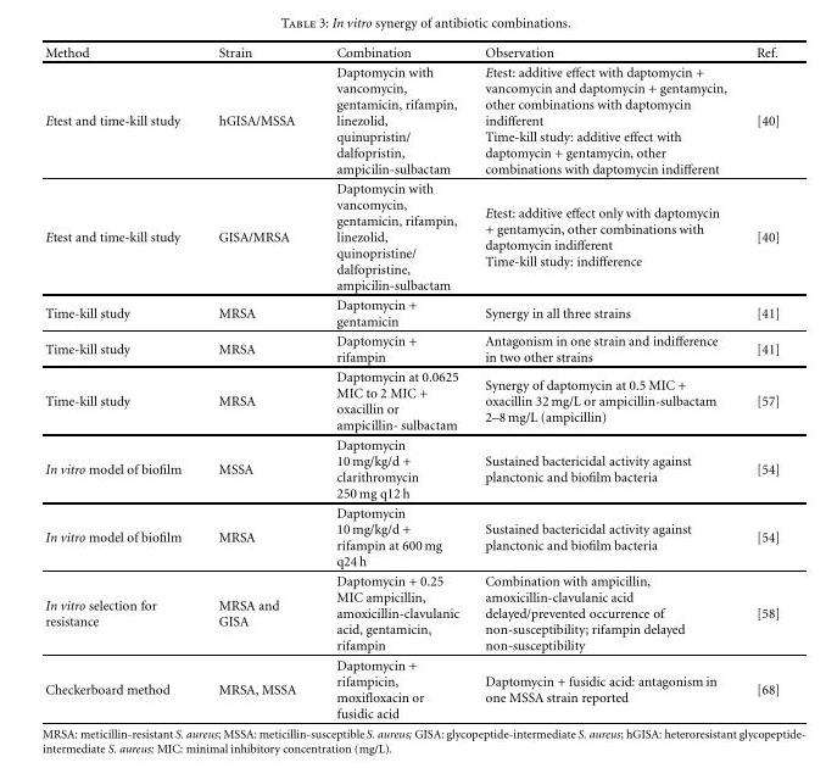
<table><thead><tr><td>Method</td><td>Strain</td><td>Combination</td><td>Observation</td><td>Ref.</td></tr></thead><tbody><tr><td>Etest and time-kill study</td><td>hGISA/MSSA</td><td>Daptomycin with vancomycin, gentamicin, rifampin, linezolid, quinupristin/ dalfopristin, ampicilin-sulbactam</td><td>Etest: additive effect with daptomycin + vancomycin and daptomycin + gentamycin, other combinations with daptomycin indifferent Time-kill study: additive effect with daptomycin + gentamycin, other combinations with daptomycin indifferent</td><td>[40]</td></tr><tr><td>Etest and time-kill study</td><td>GISA/MRSA</td><td>Daptomycin with vancomycin, gentamicin, rifampin, linezolid, quinopristine/ dalfopristine, ampicilin-sulbactam</td><td>Etest: additive effect only with daptomycin + gentamycin, other combinations with daptomycin indifferent Time-kill study: indifference</td><td>[40]</td></tr><tr><td>Time-kill study</td><td>MRSA</td><td>Daptomycin + gentamicin</td><td>Synergy in all three strains</td><td>[41]</td></tr><tr><td>Time-kill study</td><td>MRSA</td><td>Daptomycin + rifampin</td><td>Antagonism in one strain and indifference in two other strains</td><td>[41]</td></tr><tr><td>Time-kill study</td><td>MRSA</td><td>Daptomycin at 0.0625 MIC to 2 MIC + oxacillin or ampicillin- sulbactam</td><td>Synergy of daptomycin at 0.5 MIC + oxacillin 32 mg/L or ampicillin-sulbactam 2–8 mg/L (ampicillin)</td><td>[57]</td></tr><tr><td>In vitro model of biofilm</td><td>MSSA</td><td>Daptomycin 10 mg/kg/d + clarithromycin 250 mg q12 h</td><td>Sustained bactericidal activity against planctonic and biofilm bacteria</td><td>[54]</td></tr><tr><td>In vitro model of biofilm</td><td>MRSA</td><td>Daptomycin 10 mg/kg/d + rifampin at 600 mg q24 h</td><td>Sustained bactericidal activity against planctonic and biofilm bacteria</td><td>[54]</td></tr><tr><td>In vitro selection for resistance</td><td>MRSA and GISA</td><td>Daptomycin + 0.25 MIC ampicillin, amoxicillin-clavulanic acid, gentamicin, rifampin</td><td>Combination with ampicillin, amoxicillin-clavulanic acid delayed/prevented occurrence of non-susceptibility; rifampin delayed non-susceptibility</td><td>[58]</td></tr><tr><td>Checkerboard method</td><td>MRSA, MSSA</td><td>Daptomycin + rifampicin, moxifloxacin or fusidic acid</td><td>Daptomycin + fusidic acid: antagonism in one MSSA strain reported</td><td>[68]</td></tr></tbody></table>